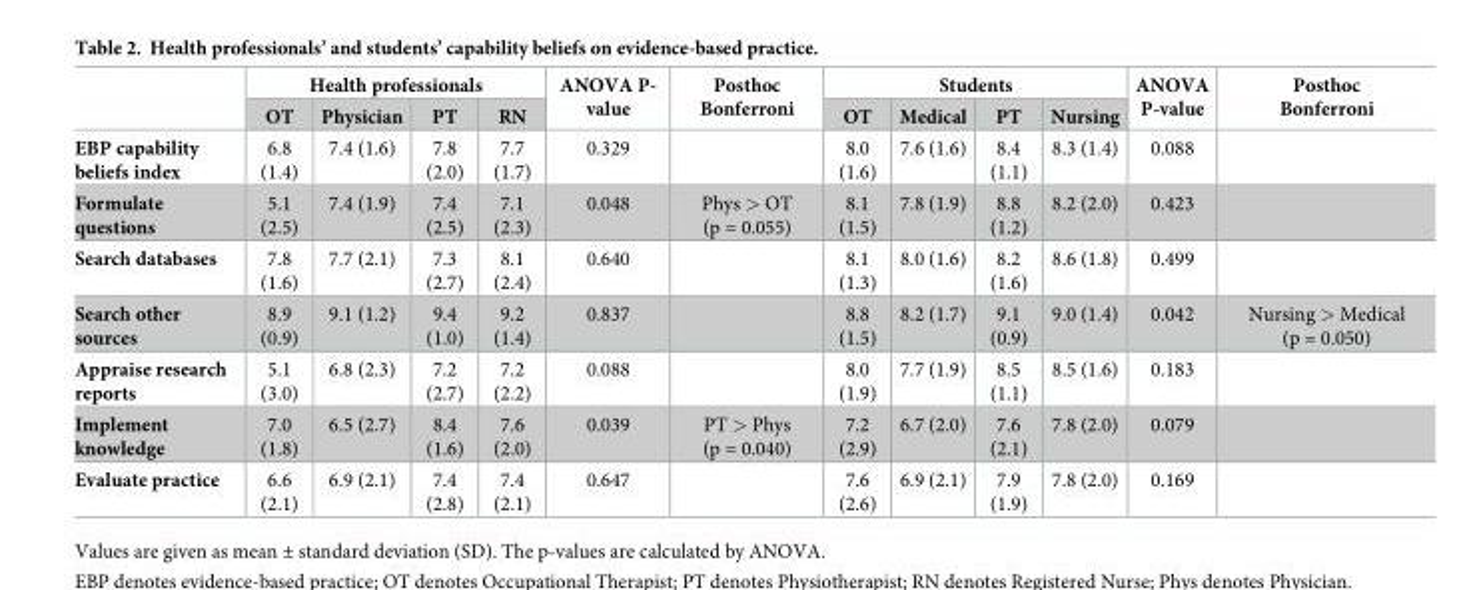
<table><thead><tr><td rowspan="2"></td><td colspan="4">Health professionals</td><td rowspan="2">ANOVA P- value</td><td rowspan="2">Posthoc Bonferroni</td><td colspan="4">Students</td><td rowspan="2">ANOVA P-value</td><td rowspan="2">Posthoc Bonferroni</td></tr><tr><td>OT</td><td>Physician</td><td>PT</td><td>RN</td><td>OT</td><td>Medical</td><td>PT</td><td>Nursing</td></tr></thead><tbody><tr><td>EBP capability beliefs index</td><td>6.8 (1.4)</td><td>7.4 (1.6)</td><td>7.8 (2.0)</td><td>7.7 (1.7)</td><td>0.329</td><td></td><td>8.0 (1.6)</td><td>7.6 (1.6)</td><td>8.4 (1.1)</td><td>8.3 (1.4)</td><td>0.088</td><td></td></tr><tr><td>Formulate questions</td><td>5.1 (2.5)</td><td>7.4 (1.9)</td><td>7.4 (2.5)</td><td>7.1 (2.3)</td><td>0.048</td><td>Phys &gt; OT (p = 0.055)</td><td>8.1 (1.5)</td><td>7.8 (1.9)</td><td>8.8 (1.2)</td><td>8.2 (2.0)</td><td>0.423</td><td></td></tr><tr><td>Search databases</td><td>7.8 (1.6)</td><td>7.7 (2.1)</td><td>7.3 (2.7)</td><td>8.1 (2.4)</td><td>0.640</td><td></td><td>8.1 (1.3)</td><td>8.0 (1.6)</td><td>8.2 (1.6)</td><td>8.6 (1.8)</td><td>0.499</td><td></td></tr><tr><td>Search other sources</td><td>8.9 (0.9)</td><td>9.1 (1.2)</td><td>9.4 (1.0)</td><td>9.2 (1.4)</td><td>0.837</td><td></td><td>8.8 (1.5)</td><td>8.2 (1.7)</td><td>9.1 (0.9)</td><td>9.0 (1.4)</td><td>0.042</td><td>Nursing &gt; Medical (p = 0.050)</td></tr><tr><td>Appraise research reports</td><td>5.1 (3.0)</td><td>6.8 (2.3)</td><td>7.2 (2.7)</td><td>7.2 (2.2)</td><td>0.088</td><td></td><td>8.0 (1.9)</td><td>7.7 (1.9)</td><td>8.5 (1.1)</td><td>8.5 (1.6)</td><td>0.183</td><td></td></tr><tr><td>Implement knowledge</td><td>7.0 (1.8)</td><td>6.5 (2.7)</td><td>8.4 (1.6)</td><td>7.6 (2.0)</td><td>0.039</td><td>PT &gt; Phys (p = 0.040)</td><td>7.2 (2.9)</td><td>6.7 (2.0)</td><td>7.6 (2.1)</td><td>7.8 (2.0)</td><td>0.079</td><td></td></tr><tr><td>Evaluate practice</td><td>6.6 (2.1)</td><td>6.9 (2.1)</td><td>7.4 (2.8)</td><td>7.4 (2.1)</td><td>0.647</td><td></td><td>7.6 (2.6)</td><td>6.9 (2.1)</td><td>7.9 (1.9)</td><td>7.8 (2.0)</td><td>0.169</td><td></td></tr></tbody></table>